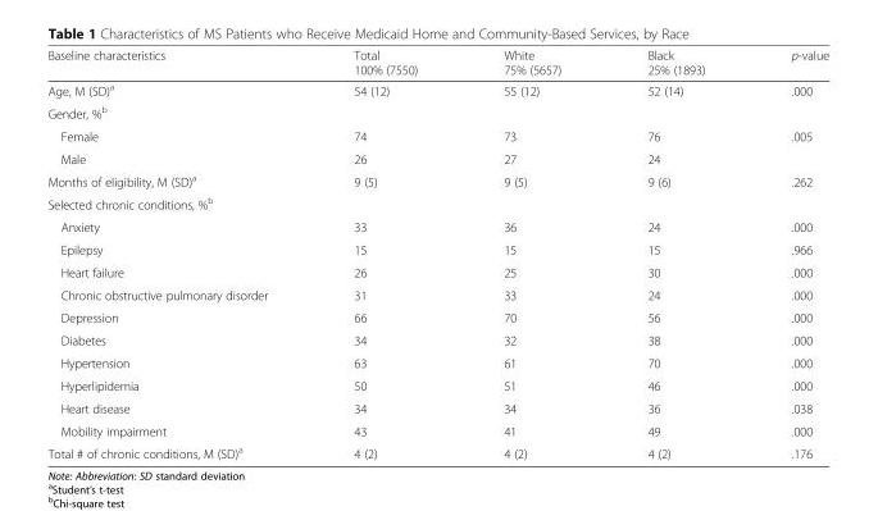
<table><thead><tr><td>Baseline characteristics</td><td>Total 100% (7550)</td><td>White 75% (5657)</td><td>Black 25% (1893)</td><td>p-value</td></tr></thead><tbody><tr><td>Age, M (SD)<sup>a</sup></td><td>54 (12)</td><td>55 (12)</td><td>52 (14)</td><td>.000</td></tr><tr><td colspan="5">Gender, %<sup>b</sup></td></tr><tr><td>Female</td><td>74</td><td>73</td><td>76</td><td>.005</td></tr><tr><td>Male</td><td>26</td><td>27</td><td>24</td><td></td></tr><tr><td>Months of eligibility, M (SD)<sup>a</sup></td><td>9 (5)</td><td>9 (5)</td><td>9 (6)</td><td>.262</td></tr><tr><td colspan="5">Selected chronic conditions, %<sup>b</sup></td></tr><tr><td>Anxiety</td><td>33</td><td>36</td><td>24</td><td>.000</td></tr><tr><td>Epilepsy</td><td>15</td><td>15</td><td>15</td><td>.966</td></tr><tr><td>Heart failure</td><td>26</td><td>25</td><td>30</td><td>.000</td></tr><tr><td>Chronic obstructive pulmonary disorder</td><td>31</td><td>33</td><td>24</td><td>.000</td></tr><tr><td>Depression</td><td>66</td><td>70</td><td>56</td><td>.000</td></tr><tr><td>Diabetes</td><td>34</td><td>32</td><td>38</td><td>.000</td></tr><tr><td>Hypertension</td><td>63</td><td>61</td><td>70</td><td>.000</td></tr><tr><td>Hyperlipidemia</td><td>50</td><td>51</td><td>46</td><td>.000</td></tr><tr><td>Heart disease</td><td>34</td><td>34</td><td>36</td><td>.038</td></tr><tr><td>Mobility impairment</td><td>43</td><td>41</td><td>49</td><td>.000</td></tr><tr><td>Total # of chronic conditions, M (SD)<sup>a</sup></td><td>4 (2)</td><td>4 (2)</td><td>4 (2)</td><td>.176</td></tr></tbody></table>